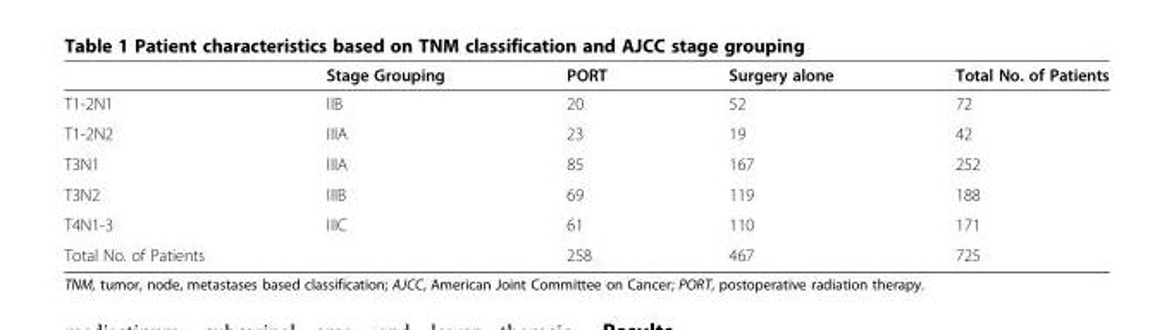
<table><thead><tr><td></td><td>Stage Grouping</td><td>PORT</td><td>Surgery alone</td><td>Total No. of Patients</td></tr></thead><tbody><tr><td>T1-2N1</td><td>IIB</td><td>20</td><td>52</td><td>72</td></tr><tr><td>T1-2N2</td><td>IIIA</td><td>23</td><td>19</td><td>42</td></tr><tr><td>T3N1</td><td>IIIA</td><td>85</td><td>167</td><td>252</td></tr><tr><td>T3N2</td><td>IIIB</td><td>69</td><td>119</td><td>188</td></tr><tr><td>T4N1-3</td><td>IIIC</td><td>61</td><td>110</td><td>171</td></tr><tr><td>Total No. of Patients</td><td></td><td>258</td><td>467</td><td>725</td></tr></tbody></table>